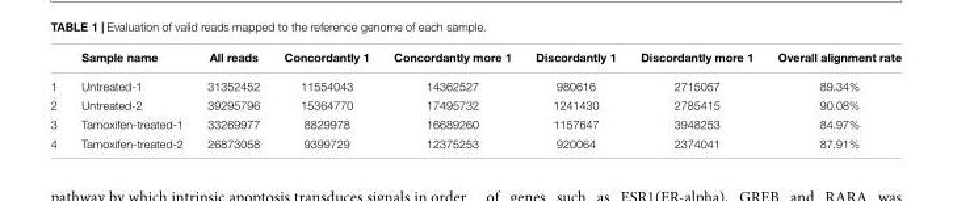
<table><thead><tr><td></td><td>Sample name</td><td>All reads</td><td>Concordantly 1</td><td>Concordantly more 1</td><td>Discordantly 1</td><td>Discordantly more 1</td><td>Overall alignment rate</td></tr></thead><tbody><tr><td>1</td><td>Untreated-1</td><td>31352452</td><td>11554043</td><td>14362527</td><td>980616</td><td>2715057</td><td>89.34%</td></tr><tr><td>2</td><td>Untreated-2</td><td>39295796</td><td>15364770</td><td>17495732</td><td>1241430</td><td>2785415</td><td>90.08%</td></tr><tr><td>3</td><td>Tamoxifen-treated-1</td><td>33269977</td><td>8829978</td><td>16689260</td><td>1157647</td><td>3948253</td><td>84.97%</td></tr><tr><td>4</td><td>Tamoxifen-treated-2</td><td>26873058</td><td>9399729</td><td>12375253</td><td>920064</td><td>2374041</td><td>87.91%</td></tr></tbody></table>